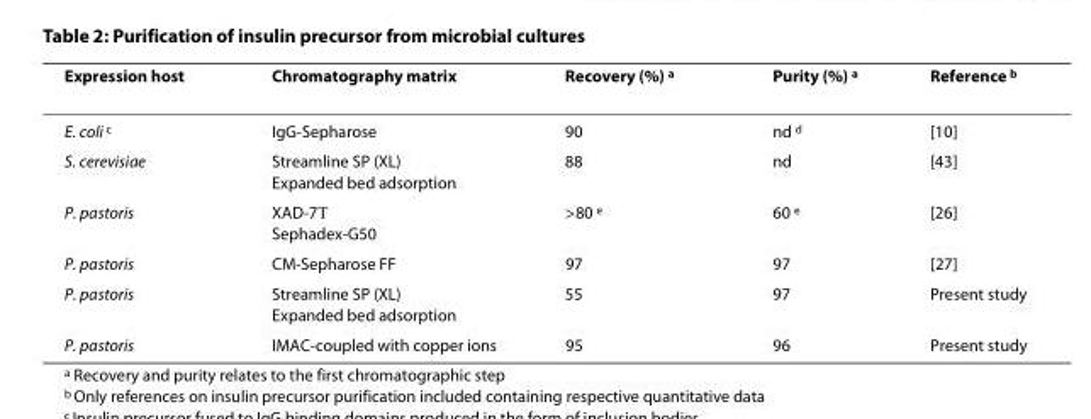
<table><thead><tr><td>Expression host</td><td>Chromatography matrix</td><td>Recovery (%) <sup>a</sup></td><td>Purity (%) <sup>a</sup></td><td>Reference <sup>b</sup></td></tr></thead><tbody><tr><td>E. coli <sup>c</sup></td><td>IgG-Sepharose</td><td>90</td><td>nd <sup>d</sup></td><td>[10]</td></tr><tr><td>S. cerevisiae</td><td>Streamline SP (XL) Expanded bed adsorption</td><td>88</td><td>nd</td><td>[43]</td></tr><tr><td>P. pastoris</td><td>XAD-7→ Sephadex-G50</td><td>&gt;80 <sup>e</sup></td><td>60 <sup>e</sup></td><td>[26]</td></tr><tr><td>P. pastoris</td><td>CM-Sepharose FF</td><td>97</td><td>97</td><td>[27]</td></tr><tr><td>P. pastoris</td><td>Streamline SP (XL) Expanded bed adsorption</td><td>55</td><td>97</td><td>Present study</td></tr><tr><td>P. pastoris</td><td>IMAC-coupled with copper ions</td><td>95</td><td>96</td><td>Present study</td></tr></tbody></table>